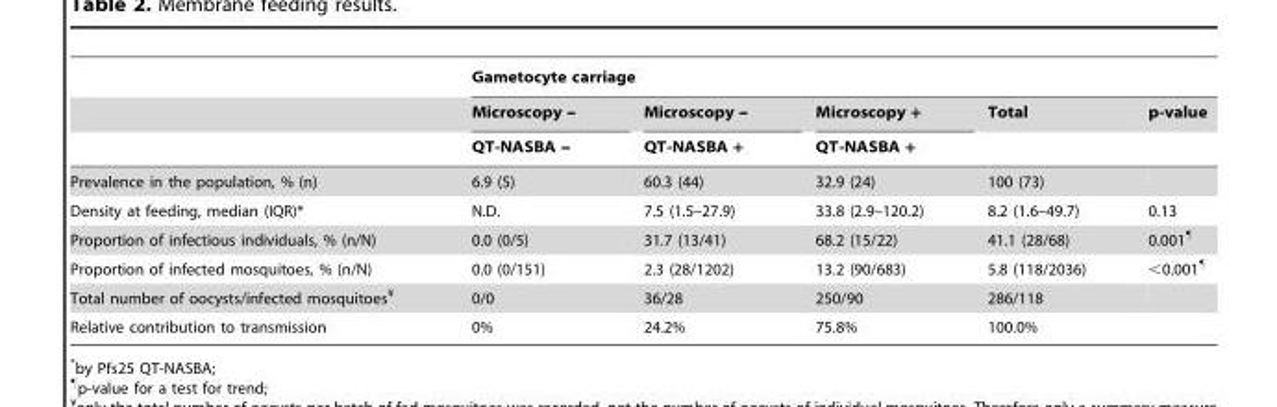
<table><thead><tr><td rowspan="3"></td><td colspan="5">Gametocyte carriage</td></tr><tr><td rowspan="2">Microscopy –– QT-NASBA ––</td><td rowspan="2">Microscopy –– QT-NASBA +</td><td rowspan="2">Microscopy + QT-NASBA +</td><td rowspan="2">Total</td><td rowspan="2">p-value</td></tr><tr></tr></thead><tbody><tr><td>Prevalence in the population, % (n)</td><td>6.9 (5)</td><td>60.3 (44)</td><td>32.9 (24)</td><td>100 (73)</td><td></td></tr><tr><td>Density at feeding, median (IQR)*</td><td>N.D.</td><td>7.5 (1.5–27.9)</td><td>33.8 (2.9–120.2)</td><td>8.2 (1.6–49.7)</td><td>0.13</td></tr><tr><td>Proportion of infectious individuals, % (n/N)</td><td>0.0 (0/5)</td><td>31.7 (13/41)</td><td>68.2 (15/22)</td><td>41.1 (28/68)</td><td>0.001¶</td></tr><tr><td>Proportion of infected mosquitoes, % (n/N)</td><td>0.0 (0/151)</td><td>2.3 (28/1202)</td><td>13.2 (90/683)</td><td>5.8 (118/2036)</td><td>&lt;0.001¶</td></tr><tr><td>Total number of oocysts/infected mosquitoes¥</td><td>0/0</td><td>36/28</td><td>250/90</td><td>286/118</td><td></td></tr><tr><td>Relative contribution to transmission</td><td>0%</td><td>24.2%</td><td>75.8%</td><td>100.0%</td><td></td></tr></tbody></table>